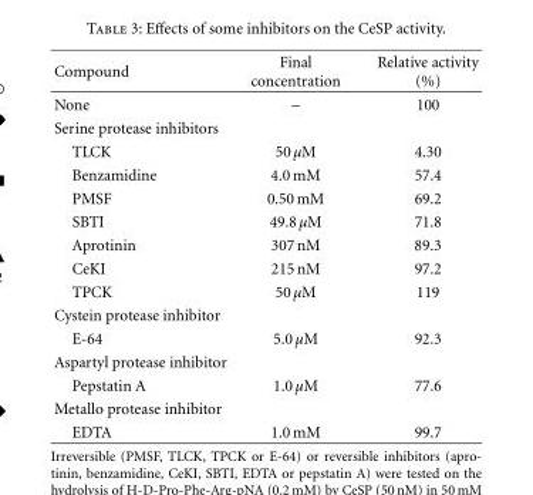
<table><thead><tr><td>Compound</td><td>Final concentration</td><td>Relative activity (%)</td></tr></thead><tbody><tr><td>None</td><td>–</td><td>100</td></tr><tr><td colspan="3">Serine protease inhibitors</td></tr><tr><td>TLCK</td><td>50 μM</td><td>4.30</td></tr><tr><td>Benzamidine</td><td>4.0 mM</td><td>57.4</td></tr><tr><td>PMSF</td><td>0.50 mM</td><td>69.2</td></tr><tr><td>SBTI</td><td>49.8 μM</td><td>71.8</td></tr><tr><td>Aprotinin</td><td>307 nM</td><td>89.3</td></tr><tr><td>CeKI</td><td>215 nM</td><td>97.2</td></tr><tr><td>TPCK</td><td>50 μM</td><td>119</td></tr><tr><td colspan="3">Cystein protease inhibitor</td></tr><tr><td>E-64</td><td>5.0 μM</td><td>92.3</td></tr><tr><td colspan="3">Aspartyl protease inhibitor</td></tr><tr><td>Pepstatin A</td><td>1.0 μM</td><td>77.6</td></tr><tr><td colspan="3">Metallo protease inhibitor</td></tr><tr><td>EDTA</td><td>1.0 mM</td><td>99.7</td></tr></tbody></table>